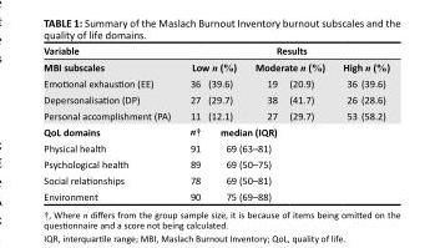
<table><thead><tr><td rowspan="3">Variable MBI subscales Emotional exhaustion (EE)</td><td colspan="6">Results</td></tr><tr><td colspan="2">Low n (%)</td><td colspan="2">Moderate n (%)</td><td colspan="2">High n (%)</td></tr><tr><td>36</td><td>(39.6)</td><td>19</td><td>(20.9)</td><td>36</td><td>(39.6)</td></tr></thead><tbody><tr><td>Depersonalisation (DP)</td><td>27</td><td>(29.7)</td><td>38</td><td>(41.7)</td><td>26</td><td>(28.6)</td></tr><tr><td>Personal accomplishment (PA)</td><td>11</td><td>(12.1)</td><td>27</td><td>(29.7)</td><td>53</td><td>(58.2)</td></tr><tr><td>QoL domains</td><td>n†</td><td colspan="2">median (IQR)</td><td colspan="3"></td></tr><tr><td>Physical health</td><td>91</td><td colspan="2">69 (63–81)</td><td colspan="3"></td></tr><tr><td>Psychological health</td><td>89</td><td colspan="2">69 (50–75)</td><td colspan="3"></td></tr><tr><td>Social relationships</td><td>78</td><td colspan="2">69 (50–81)</td><td colspan="3"></td></tr><tr><td>Environment</td><td>90</td><td colspan="2">75 (69–88)</td><td colspan="3"></td></tr></tbody></table>